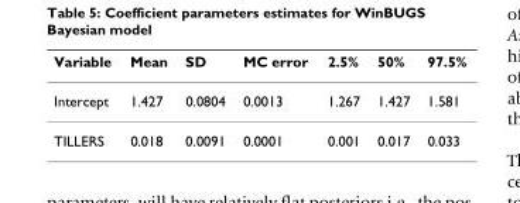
<table><thead><tr><td>Variable</td><td>Mean</td><td>SD</td><td>MC error</td><td>2.5%</td><td>50%</td><td>97.5%</td></tr></thead><tbody><tr><td>Intercept</td><td>1.427</td><td>0.0804</td><td>0.0013</td><td>1.267</td><td>1.427</td><td>1.581</td></tr><tr><td>TILLERS</td><td>0.018</td><td>0.0091</td><td>0.0001</td><td>0.001</td><td>0.017</td><td>0.033</td></tr></tbody></table>